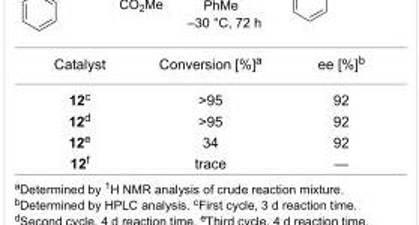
<table><tbody><tr><td>Catalyst</td><td>Conversion [%]<sup>a</sup></td><td>ee [%]<sup>b</sup></td></tr><tr><td>12<sup>c</sup></td><td>&gt;95</td><td>92</td></tr><tr><td>12<sup>d</sup></td><td>&gt;95</td><td>92</td></tr><tr><td>12<sup>e</sup></td><td>34</td><td>92</td></tr><tr><td>12<sup>f</sup></td><td>trace</td><td>—</td></tr></tbody></table>